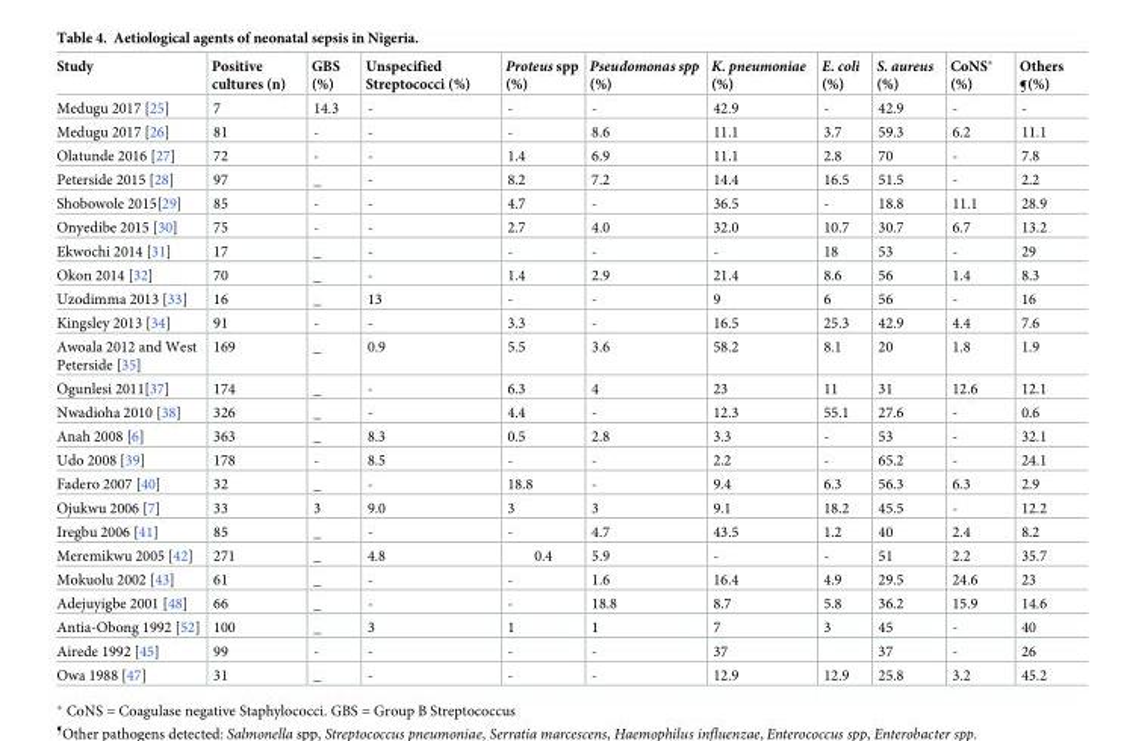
<table><thead><tr><td>Study</td><td>Positive cultures (n)</td><td>GBS (%)</td><td>Unspecified Streptococci (%)</td><td>Proteus spp (%)</td><td>Pseudomonas spp (%)</td><td>K. pneumoniae (%)</td><td>E. coli (%)</td><td>S. aureus (%)</td><td>CoNS* (%)</td><td>Others ¶(%)</td></tr></thead><tbody><tr><td>Medugu 2017 [25]</td><td>7</td><td>14.3</td><td>-</td><td>-</td><td>-</td><td>42.9</td><td>-</td><td>42.9</td><td>-</td><td>-</td></tr><tr><td>Medugu 2017 [26]</td><td>81</td><td>-</td><td>-</td><td>-</td><td>8.6</td><td>11.1</td><td>3.7</td><td>59.3</td><td>6.2</td><td>11.1</td></tr><tr><td>Olatunde 2016 [27]</td><td>72</td><td>-</td><td>-</td><td>1.4</td><td>6.9</td><td>11.1</td><td>2.8</td><td>70</td><td>-</td><td>7.8</td></tr><tr><td>Peterside 2015 [28]</td><td>97</td><td>_</td><td>-</td><td>8.2</td><td>7.2</td><td>14.4</td><td>16.5</td><td>51.5</td><td>-</td><td>2.2</td></tr><tr><td>Shobowole 2015[29]</td><td>85</td><td>-</td><td>-</td><td>4.7</td><td>-</td><td>36.5</td><td>-</td><td>18.8</td><td>11.1</td><td>28.9</td></tr><tr><td>Onyedibe 2015 [30]</td><td>75</td><td>-</td><td>-</td><td>2.7</td><td>4.0</td><td>32.0</td><td>10.7</td><td>30.7</td><td>6.7</td><td>13.2</td></tr><tr><td>Ekwochi 2014 [31]</td><td>17</td><td>_</td><td>-</td><td>-</td><td>-</td><td>-</td><td>18</td><td>53</td><td>-</td><td>29</td></tr><tr><td>Okon 2014 [32]</td><td>70</td><td>_</td><td>-</td><td>1.4</td><td>2.9</td><td>21.4</td><td>8.6</td><td>56</td><td>1.4</td><td>8.3</td></tr><tr><td>Uzodimma 2013 [33]</td><td>16</td><td>_</td><td>13</td><td>-</td><td>-</td><td>9</td><td>6</td><td>56</td><td>-</td><td>16</td></tr><tr><td>Kingsley 2013 [34]</td><td>91</td><td>-</td><td>-</td><td>3.3</td><td>-</td><td>16.5</td><td>25.3</td><td>42.9</td><td>4.4</td><td>7.6</td></tr><tr><td>Awoala 2012 and West Peterside [35]</td><td>169</td><td>_</td><td>0.9</td><td>5.5</td><td>3.6</td><td>58.2</td><td>8.1</td><td>20</td><td>1.8</td><td>1.9</td></tr><tr><td>Ogunlesi 2011[37]</td><td>174</td><td>_</td><td>-</td><td>6.3</td><td>4</td><td>23</td><td>11</td><td>31</td><td>12.6</td><td>12.1</td></tr><tr><td>Nwadioha 2010 [38]</td><td>326</td><td>_</td><td>-</td><td>4.4</td><td>-</td><td>12.3</td><td>55.1</td><td>27.6</td><td>-</td><td>0.6</td></tr><tr><td>Anah 2008 [6]</td><td>363</td><td>_</td><td>8.3</td><td>0.5</td><td>2.8</td><td>3.3</td><td>-</td><td>53</td><td>-</td><td>32.1</td></tr><tr><td>Udo 2008 [39]</td><td>178</td><td>-</td><td>8.5</td><td>-</td><td>-</td><td>2.2</td><td>-</td><td>65.2</td><td>-</td><td>24.1</td></tr><tr><td>Fadero 2007 [40]</td><td>32</td><td>_</td><td>-</td><td>18.8</td><td>-</td><td>9.4</td><td>6.3</td><td>56.3</td><td>6.3</td><td>2.9</td></tr><tr><td>Ojukwu 2006 [7]</td><td>33</td><td>3</td><td>9.0</td><td>3</td><td>3</td><td>9.1</td><td>18.2</td><td>45.5</td><td>-</td><td>12.2</td></tr><tr><td>Iregbu 2006 [41]</td><td>85</td><td>_</td><td>-</td><td>-</td><td>4.7</td><td>43.5</td><td>1.2</td><td>40</td><td>2.4</td><td>8.2</td></tr><tr><td>Meremikwu 2005 [42]</td><td>271</td><td>_</td><td>4.8</td><td>0.4</td><td>5.9</td><td>-</td><td>-</td><td>51</td><td>2.2</td><td>35.7</td></tr><tr><td>Mokuolu 2002 [43]</td><td>61</td><td>_</td><td>-</td><td>-</td><td>1.6</td><td>16.4</td><td>4.9</td><td>29.5</td><td>24.6</td><td>23</td></tr><tr><td>Adejuyigbe 2001 [48]</td><td>66</td><td>_</td><td>-</td><td>-</td><td>18.8</td><td>8.7</td><td>5.8</td><td>36.2</td><td>15.9</td><td>14.6</td></tr><tr><td>Antia-Obong 1992 [52]</td><td>100</td><td>_</td><td>3</td><td>1</td><td>1</td><td>7</td><td>3</td><td>45</td><td>-</td><td>40</td></tr><tr><td>Airede 1992 [45]</td><td>99</td><td>-</td><td>-</td><td>-</td><td>-</td><td>37</td><td></td><td>37</td><td>-</td><td>26</td></tr><tr><td>Owa 1988 [47]</td><td>31</td><td>_</td><td>-</td><td>-</td><td>-</td><td>12.9</td><td>12.9</td><td>25.8</td><td>3.2</td><td>45.2</td></tr></tbody></table>